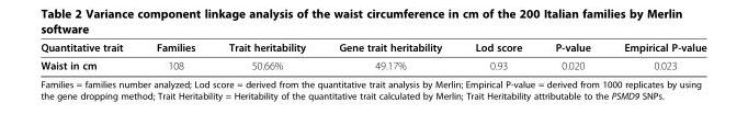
<table><thead><tr><td>Quantitative trait</td><td>Families</td><td>Trait heritability</td><td>Gene trait heritability</td><td>Lod score</td><td>P-value</td><td>Empirical P-value</td></tr></thead><tbody><tr><td>Waist in cm</td><td>108</td><td>50.66%</td><td>49.17%</td><td>0.93</td><td>0.020</td><td>0.023</td></tr></tbody></table>